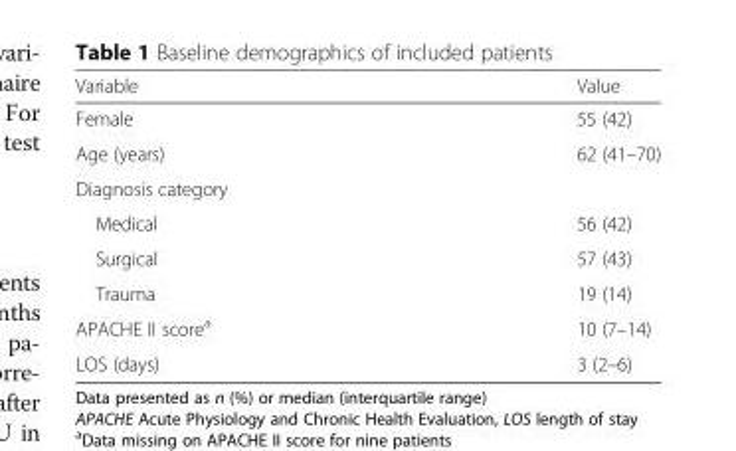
<table><thead><tr><td>Variable</td><td>Value</td></tr></thead><tbody><tr><td>Female</td><td>55 (42)</td></tr><tr><td>Age (years)</td><td>62 (41–70)</td></tr><tr><td colspan="2">Diagnosis category</td></tr><tr><td>Medical</td><td>56 (42)</td></tr><tr><td>Surgical</td><td>57 (43)</td></tr><tr><td>Trauma</td><td>19 (14)</td></tr><tr><td>APACHE II score<sup>a</sup></td><td>10 (7–14)</td></tr><tr><td>LOS (days)</td><td>3 (2–6)</td></tr></tbody></table>